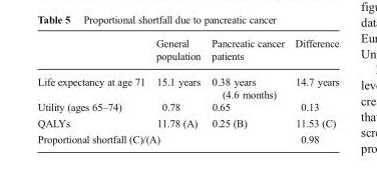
<table><thead><tr><td></td><td>General population</td><td>Pancreatic cancer patients</td><td>Difference</td></tr></thead><tbody><tr><td>Life expectancy at age 71</td><td>15.1 years</td><td>0.38 years (4.6 months)</td><td>14.7 years</td></tr><tr><td>Utility (ages 65–74)</td><td>0.78</td><td>0.65</td><td>0.13</td></tr><tr><td>QALYs</td><td>11.78 (A)</td><td>0.25 (B)</td><td>11.53 (C)</td></tr><tr><td colspan="3">Proportional shortfall (C)/(A)</td><td>0.98</td></tr></tbody></table>